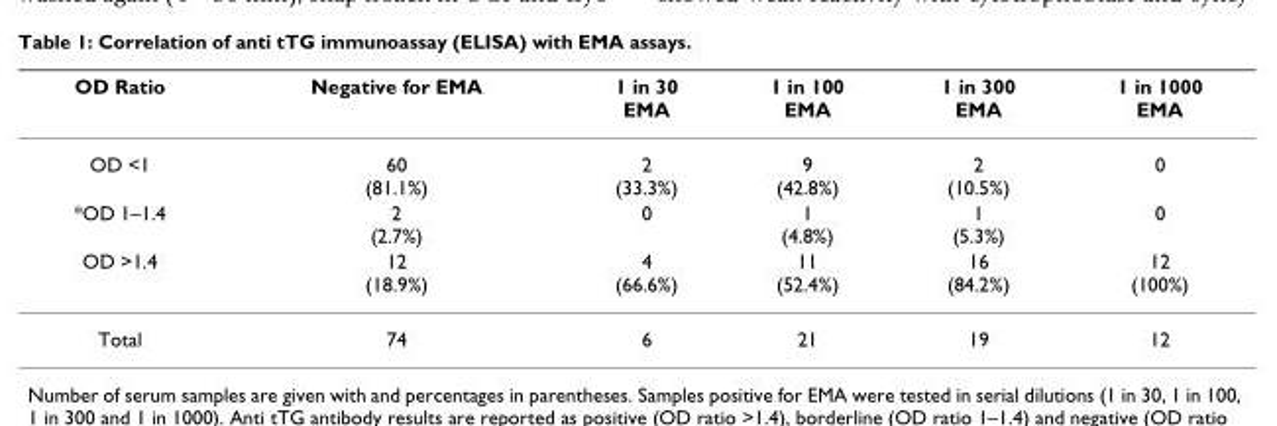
<table><thead><tr><td>OD Ratio</td><td>Negative for EMA</td><td>1 in 30 EMA</td><td>1 in 100 EMA</td><td>1 in 300 EMA</td><td>1 in 1000 EMA</td></tr></thead><tbody><tr><td>OD &lt;1</td><td>60 (81.1%)</td><td>2 (33.3%)</td><td>9 (42.8%)</td><td>2 (10.5%)</td><td>0</td></tr><tr><td>*OD 1–1.4</td><td>2 (2.7%)</td><td>0</td><td>1 (4.8%)</td><td>1 (5.3%)</td><td>0</td></tr><tr><td>OD &gt;1.4</td><td>12 (18.9%)</td><td>4 (66.6%)</td><td>11 (52.4%)</td><td>16 (84.2%)</td><td>12 (100%)</td></tr><tr><td>Total</td><td>74</td><td>6</td><td>21</td><td>19</td><td>12</td></tr></tbody></table>